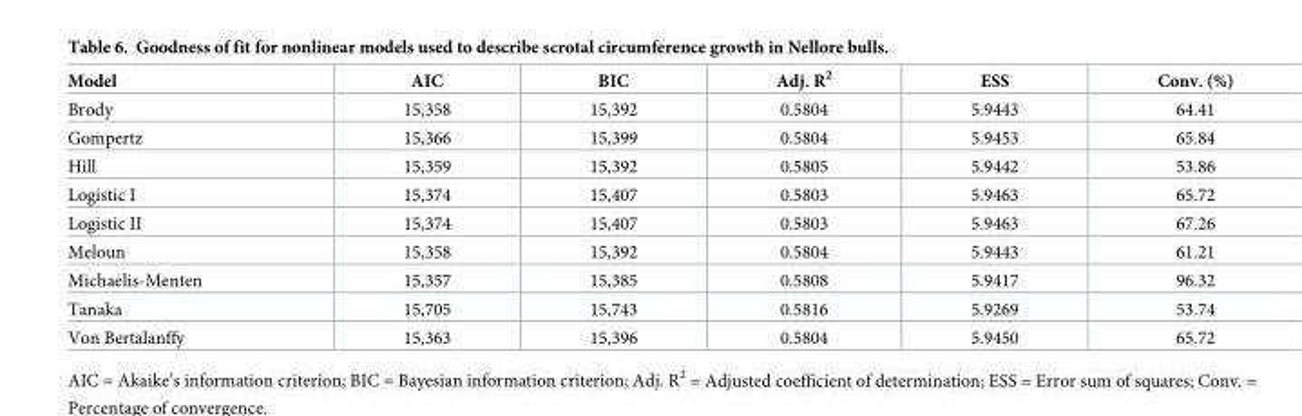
<table><thead><tr><td>Model</td><td>AIC</td><td>BIC</td><td>Adj. R<sup>2</sup></td><td>ESS</td><td>Conv. (%)</td></tr></thead><tbody><tr><td>Brody</td><td>15,358</td><td>15,392</td><td>0.5804</td><td>5.9443</td><td>64.41</td></tr><tr><td>Gompertz</td><td>15,366</td><td>15,399</td><td>0.5804</td><td>5.9453</td><td>65.84</td></tr><tr><td>Hill</td><td>15,359</td><td>15,392</td><td>0.5805</td><td>5.9442</td><td>53.86</td></tr><tr><td>Logistic I</td><td>15,374</td><td>15,407</td><td>0.5803</td><td>5.9463</td><td>65.72</td></tr><tr><td>Logistic II</td><td>15,374</td><td>15,407</td><td>0.5803</td><td>5.9463</td><td>67.26</td></tr><tr><td>Meloun</td><td>15,358</td><td>15,392</td><td>0.5804</td><td>5.9443</td><td>61.21</td></tr><tr><td>Michaelis-Menten</td><td>15,357</td><td>15,385</td><td>0.5808</td><td>5.9417</td><td>96.32</td></tr><tr><td>Tanaka</td><td>15,705</td><td>15,743</td><td>0.5816</td><td>5.9269</td><td>53.74</td></tr><tr><td>Von Bertalanffy</td><td>15,363</td><td>15,396</td><td>0.5804</td><td>5.9450</td><td>65.72</td></tr></tbody></table>